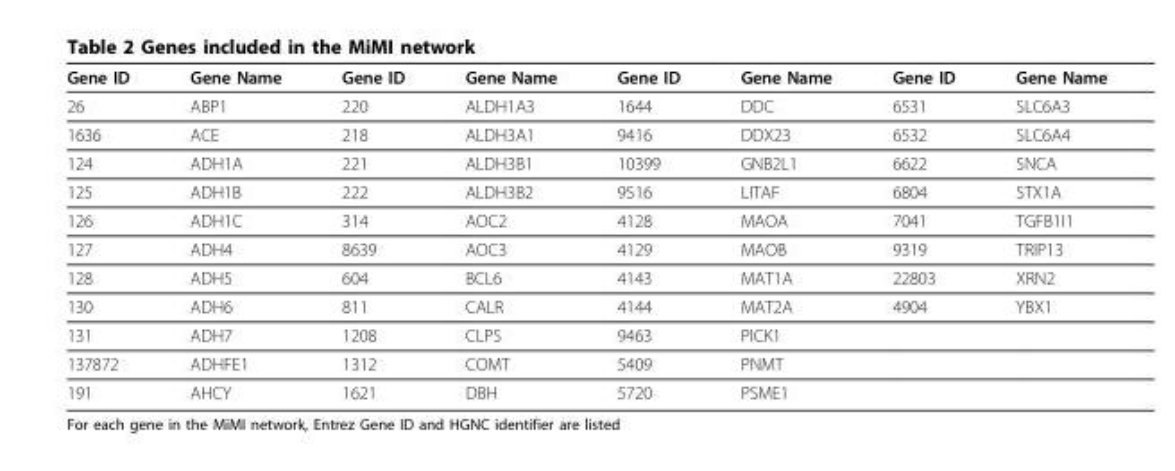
<table><thead><tr><td>Gene ID</td><td>Gene Name</td><td>Gene ID</td><td>Gene Name</td><td>Gene ID</td><td>Gene Name</td><td>Gene ID</td><td>Gene Name</td></tr></thead><tbody><tr><td>26</td><td>ABP1</td><td>220</td><td>ALDH1A3</td><td>1644</td><td>DDC</td><td>6531</td><td>SLC6A3</td></tr><tr><td>1636</td><td>ACE</td><td>218</td><td>ALDH3A1</td><td>9416</td><td>DDX23</td><td>6532</td><td>SLC6A4</td></tr><tr><td>124</td><td>ADH1A</td><td>221</td><td>ALDH3B1</td><td>10399</td><td>GNB2L1</td><td>6622</td><td>SNCA</td></tr><tr><td>125</td><td>ADH1B</td><td>222</td><td>ALDH3B2</td><td>9516</td><td>LITAF</td><td>6804</td><td>STX1A</td></tr><tr><td>126</td><td>ADH1C</td><td>314</td><td>AOC2</td><td>4128</td><td>MAOA</td><td>7041</td><td>TGFB1I1</td></tr><tr><td>127</td><td>ADH4</td><td>8639</td><td>AOC3</td><td>4129</td><td>MAOB</td><td>9319</td><td>TRIP13</td></tr><tr><td>128</td><td>ADH5</td><td>604</td><td>BCL6</td><td>4143</td><td>MAT1A</td><td>22803</td><td>XRN2</td></tr><tr><td>130</td><td>ADH6</td><td>811</td><td>CALR</td><td>4144</td><td>MAT2A</td><td>4904</td><td>YBX1</td></tr><tr><td>131</td><td>ADH7</td><td>1208</td><td>CLPS</td><td>9463</td><td>PICK1</td><td></td><td></td></tr><tr><td>137872</td><td>ADHFE1</td><td>1312</td><td>COMT</td><td>5409</td><td>PNMT</td><td></td><td></td></tr><tr><td>191</td><td>AHCY</td><td>1621</td><td>DBH</td><td>5720</td><td>PSME1</td><td></td><td></td></tr></tbody></table>